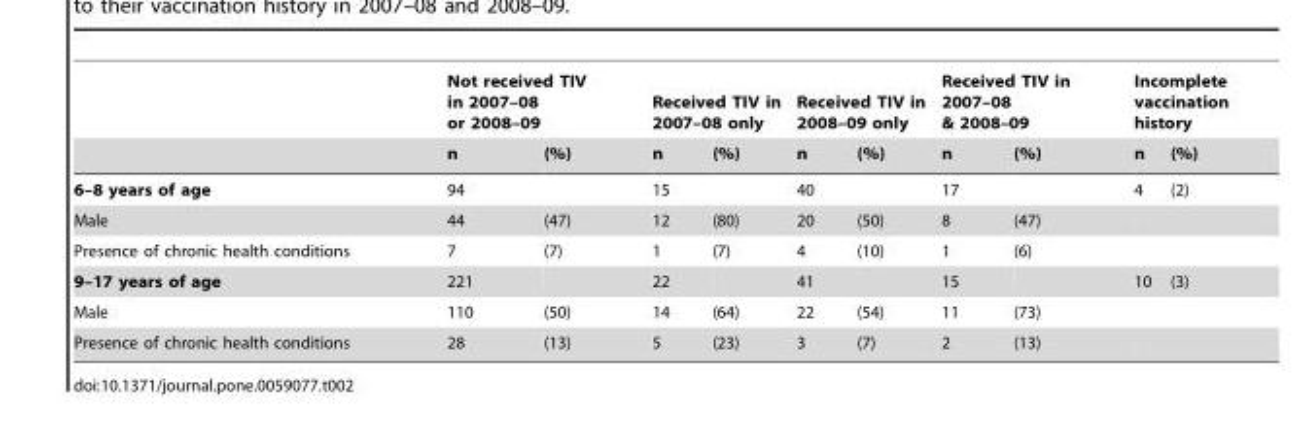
<table><thead><tr><td rowspan="2"></td><td colspan="2">Not received TIV in 2007–08 or 2008–09</td><td colspan="2">Received TIV in 2007–08 only</td><td colspan="2">Received TIV in 2008–09 only</td><td colspan="2">Received TIV in 2007–08 &amp; 2008–09</td><td colspan="2">Incomplete vaccination history</td></tr><tr><td>n</td><td>(%)</td><td>n</td><td>(%)</td><td>n</td><td>(%)</td><td>n</td><td>(%)</td><td>n</td><td>(%)</td></tr></thead><tbody><tr><td>6–8 years of age</td><td>94</td><td></td><td>15</td><td></td><td>40</td><td></td><td>17</td><td></td><td>4</td><td>(2)</td></tr><tr><td>Male</td><td>44</td><td>(47)</td><td>12</td><td>(80)</td><td>20</td><td>(50)</td><td>8</td><td>(47)</td><td></td><td></td></tr><tr><td>Presence of chronic health conditions</td><td>7</td><td>(7)</td><td>1</td><td>(7)</td><td>4</td><td>(10)</td><td>1</td><td>(6)</td><td></td><td></td></tr><tr><td>9–17 years of age</td><td>221</td><td></td><td>22</td><td></td><td>41</td><td></td><td>15</td><td></td><td>10</td><td>(3)</td></tr><tr><td>Male</td><td>110</td><td>(50)</td><td>14</td><td>(64)</td><td>22</td><td>(54)</td><td>11</td><td>(73)</td><td></td><td></td></tr><tr><td>Presence of chronic health conditions</td><td>28</td><td>(13)</td><td>5</td><td>(23)</td><td>3</td><td>(7)</td><td>2</td><td>(13)</td><td></td><td></td></tr></tbody></table>